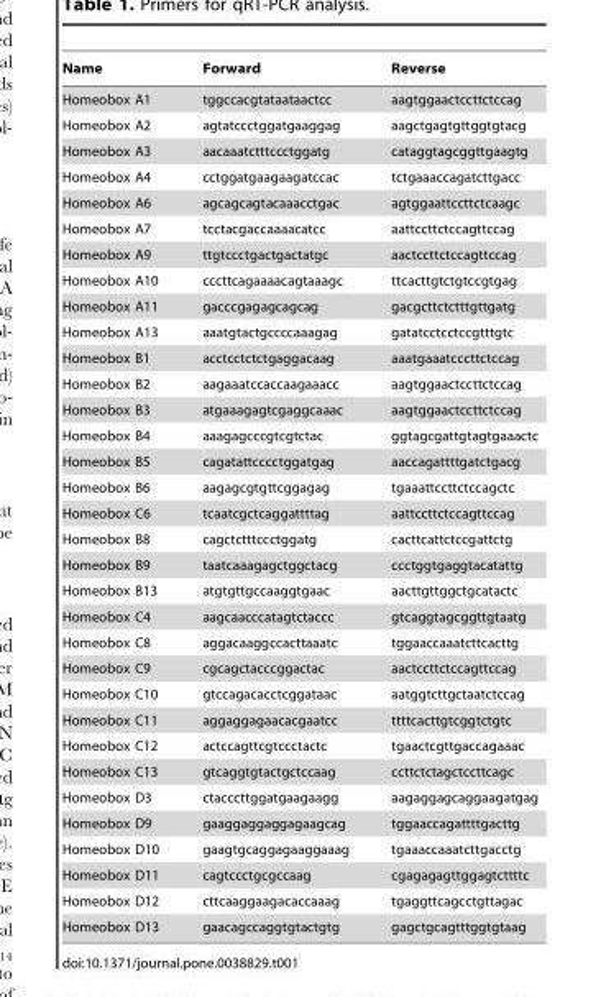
<table><thead><tr><td>Name</td><td>Forward</td><td>Reverse</td></tr></thead><tbody><tr><td>Homeobox A1</td><td>tggccacgtataataactcc</td><td>aagtggaactccttctccag</td></tr><tr><td>Homeobox A2</td><td>agtatccctggatgaaggag</td><td>aagctgagtgttggtgtacg</td></tr><tr><td>Homeobox A3</td><td>aacaaatctttccctggatg</td><td>cataggtagcggttgaagtg</td></tr><tr><td>Homeobox A4</td><td>cctggatgaagaagatccac</td><td>tctgaaaccagatcttgacc</td></tr><tr><td>Homeobox A6</td><td>agcagcagtacaaacctgac</td><td>agtggaattccttctcaagc</td></tr><tr><td>Homeobox A7</td><td>tcctacgaccaaaacatcc</td><td>aattccttctccagttccag</td></tr><tr><td>Homeobox A9</td><td>ttgtccctgactgactatgc</td><td>aactccttctccagttccag</td></tr><tr><td>Homeobox A10</td><td>cccttcagaaaacagtaaagc</td><td>ttcacttgtctgtccgtgag</td></tr><tr><td>Homeobox A11</td><td>gacccgagagcagcag</td><td>gacgcttctctttgttgatg</td></tr><tr><td>Homeobox A13</td><td>aaatgtactgccccaaagag</td><td>gatatcctcctccgtttgtc</td></tr><tr><td>Homeobox B1</td><td>acctcctctctgaggacaag</td><td>aaatgaaatcccttctccag</td></tr><tr><td>Homeobox B2</td><td>aagaaatccaccaagaaacc</td><td>aagtggaactccttctccag</td></tr><tr><td>Homeobox B3</td><td>atgaaagagtcgaggcaaac</td><td>aagtggaactccttctccag</td></tr><tr><td>Homeobox B4</td><td>aaagagcccgtcgtctac</td><td>ggtagcgattgtagtgaaactc</td></tr><tr><td>Homeobox B5</td><td>cagatattcccctggatgag</td><td>aaccagattttgatctgacg</td></tr><tr><td>Homeobox B6</td><td>aagagcgtgttcggagag</td><td>tgaaattccttctccagctc</td></tr><tr><td>Homeobox C6</td><td>tcaatcgctcaggattttag</td><td>aattccttctccagttccag</td></tr><tr><td>Homeobox B8</td><td>cagctctttccctggatg</td><td>cacttcattctccgattctg</td></tr><tr><td>Homeobox B9</td><td>taatcaaagagctggctacg</td><td>ccctggtgaggtacatattg</td></tr><tr><td>Homeobox B13</td><td>atgtgttgccaaggtgaac</td><td>aacttgttggctgcatactc</td></tr><tr><td>Homeobox C4</td><td>aagcaacccatagtctaccc</td><td>gtcaggtagcggttgtaatg</td></tr><tr><td>Homeobox C8</td><td>aggacaaggccacttaaatc</td><td>tggaaccaaatcttcacttg</td></tr><tr><td>Homeobox C9</td><td>cgcagctacccggactac</td><td>aactccttctccagttccag</td></tr><tr><td>Homeobox C10</td><td>gtccagacacctcggataac</td><td>aatggtcttgctaatctccag</td></tr><tr><td>Homeobox C11</td><td>aggaggagaacacgaatcc</td><td>ttttcacttgtcggtctgtc</td></tr><tr><td>Homeobox C12</td><td>actccagttcgtccctactc</td><td>tgaactcgttgaccagaaac</td></tr><tr><td>Homeobox C13</td><td>gtcaggtgtactgctccaag</td><td>ccttctctagctccttcagc</td></tr><tr><td>Homeobox D3</td><td>ctacccttggatgaagaagg</td><td>aagaggagcaggaagatgag</td></tr><tr><td>Homeobox D9</td><td>gaaggaggaggagaagcag</td><td>tggaaccagattttgacttg</td></tr><tr><td>Homeobox D10</td><td>gaagtgcaggagaaggaaag</td><td>tgaaaccaaatcttgacctg</td></tr><tr><td>Homeobox D11</td><td>cagtccctgcgccaag</td><td>cgagagagttggagtcttttc</td></tr><tr><td>Homeobox D12</td><td>cttcaaggaagacaccaaag</td><td>tgaggttcagcctgttagac</td></tr><tr><td>Homeobox D13</td><td>gaacagccaggtgtactgtg</td><td>gagctgcagtttggtgtaag</td></tr></tbody></table>